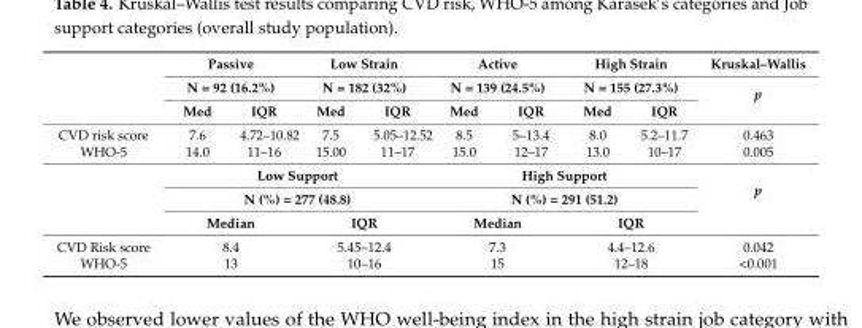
<table><thead><tr><td rowspan="3"></td><td rowspan="2" colspan="2">Passive N = 92 (16.2%)</td><td rowspan="2" colspan="2">Low Strain N = 182 (32%)</td><td rowspan="2" colspan="2">Active N = 139 (24.5%)</td><td rowspan="2" colspan="2">High Strain N = 155 (27.3%)</td><td rowspan="3">Kruskal–Wallis p</td></tr><tr></tr><tr><td>Med</td><td>IQR</td><td>Med</td><td>IQR</td><td>Med</td><td>IQR</td><td>Med</td><td>IQR</td></tr></thead><tbody><tr><td>CVD risk score</td><td>7.6</td><td>4.72–10.82</td><td>7.5</td><td>5.05–12.52</td><td>8.5</td><td>5–13.4</td><td>8.0</td><td>5.2–11.7</td><td>0.463</td></tr><tr><td rowspan="4">WHO-5</td><td>14.0</td><td>11–16</td><td>15.00</td><td>11–17</td><td>15.0</td><td>12–17</td><td>13.0</td><td>10–17</td><td>0.005</td></tr><tr><td colspan="4">Low Support</td><td colspan="4">High Support</td><td rowspan="3">p</td></tr><tr><td colspan="4">N (%) = 277 (48.8)</td><td colspan="4">N (%) = 291 (51.2)</td></tr><tr><td colspan="2">Median</td><td colspan="2">IQR</td><td colspan="2">Median</td><td colspan="2">IQR</td></tr><tr><td>CVD Risk score</td><td colspan="2">8.4</td><td colspan="2">5.45–12.4</td><td colspan="2">7.3</td><td colspan="2">4.4–12.6</td><td>0.042</td></tr><tr><td>WHO-5</td><td colspan="2">13</td><td colspan="2">10–16</td><td colspan="2">15</td><td colspan="2">12–18</td><td>&lt;0.001</td></tr></tbody></table>